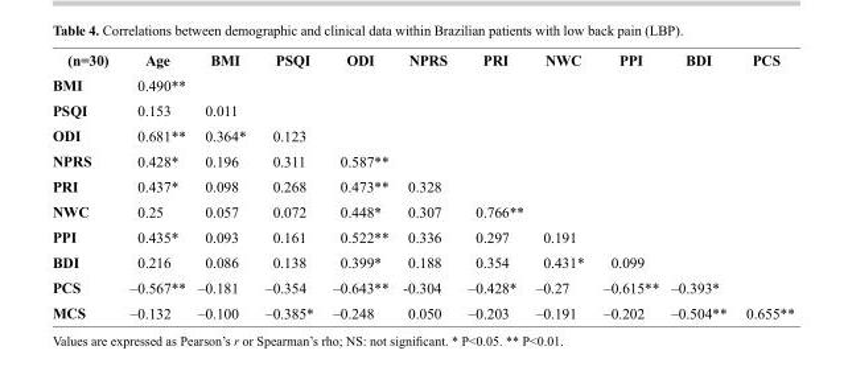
<table><thead><tr><td>(n=30)</td><td>Age</td><td>BMI</td><td>PSQI</td><td>ODI</td><td>NPRS</td><td>PRI</td><td>NWC</td><td>PPI</td><td>BDI</td><td>PCS</td></tr></thead><tbody><tr><td>BMI</td><td>0.490**</td><td></td><td></td><td></td><td></td><td></td><td></td><td></td><td></td><td></td></tr><tr><td>PSQI</td><td>0.153</td><td>0.011</td><td></td><td></td><td></td><td></td><td></td><td></td><td></td><td></td></tr><tr><td>ODI</td><td>0.681**</td><td>0.364*</td><td>0.123</td><td></td><td></td><td></td><td></td><td></td><td></td><td></td></tr><tr><td>NPRS</td><td>0.428*</td><td>0.196</td><td>0.311</td><td>0.587**</td><td></td><td></td><td></td><td></td><td></td><td></td></tr><tr><td>PRI</td><td>0.437*</td><td>0.098</td><td>0.268</td><td>0.473**</td><td>0.328</td><td></td><td></td><td></td><td></td><td></td></tr><tr><td>NWC</td><td>0.25</td><td>0.057</td><td>0.072</td><td>0.448*</td><td>0.307</td><td>0.766**</td><td></td><td></td><td></td><td></td></tr><tr><td>PPI</td><td>0.435*</td><td>0.093</td><td>0.161</td><td>0.522**</td><td>0.336</td><td>0.297</td><td>0.191</td><td></td><td></td><td></td></tr><tr><td>BDI</td><td>0.216</td><td>0.086</td><td>0.138</td><td>0.399*</td><td>0.188</td><td>0.354</td><td>0.431*</td><td>0.099</td><td></td><td></td></tr><tr><td>PCS</td><td>–0.567**</td><td>–0.181</td><td>–0.354</td><td>–0.643**</td><td>-0.304</td><td>–0.428*</td><td>–0.27</td><td>–0.615**</td><td>–0.393*</td><td></td></tr><tr><td>MCS</td><td>–0.132</td><td>–0.100</td><td>–0.385*</td><td>–0.248</td><td>0.050</td><td>–0.203</td><td>–0.191</td><td>–0.202</td><td>–0.504**</td><td>0.655**</td></tr></tbody></table>